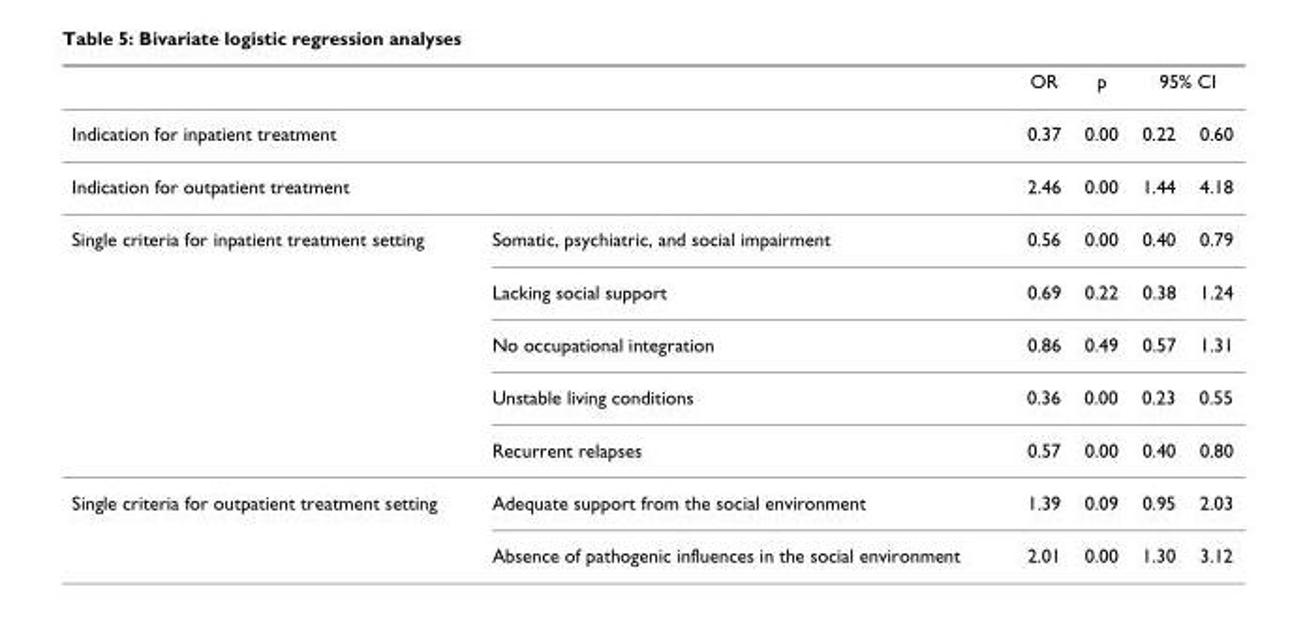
<table><thead><tr><td></td><td></td><td rowspan="2">OR 0.37</td><td rowspan="2">p 0.00</td><td colspan="2">95% CI</td></tr><tr><td colspan="2">Indication for inpatient treatment</td><td>0.22</td><td>0.60</td></tr></thead><tbody><tr><td colspan="2">Indication for outpatient treatment</td><td>2.46</td><td>0.00</td><td>1.44</td><td>4.18</td></tr><tr><td rowspan="5">Single criteria for inpatient treatment setting</td><td>Somatic, psychiatric, and social impairment</td><td>0.56</td><td>0.00</td><td>0.40</td><td>0.79</td></tr><tr><td>Lacking social support</td><td>0.69</td><td>0.22</td><td>0.38</td><td>1.24</td></tr><tr><td>No occupational integration</td><td>0.86</td><td>0.49</td><td>0.57</td><td>1.31</td></tr><tr><td>Unstable living conditions</td><td>0.36</td><td>0.00</td><td>0.23</td><td>0.55</td></tr><tr><td>Recurrent relapses</td><td>0.57</td><td>0.00</td><td>0.40</td><td>0.80</td></tr><tr><td rowspan="2">Single criteria for outpatient treatment setting</td><td>Adequate support from the social environment</td><td>1.39</td><td>0.09</td><td>0.95</td><td>2.03</td></tr><tr><td>Absence of pathogenic influences in the social environment</td><td>2.01</td><td>0.00</td><td>1.30</td><td>3.12</td></tr></tbody></table>